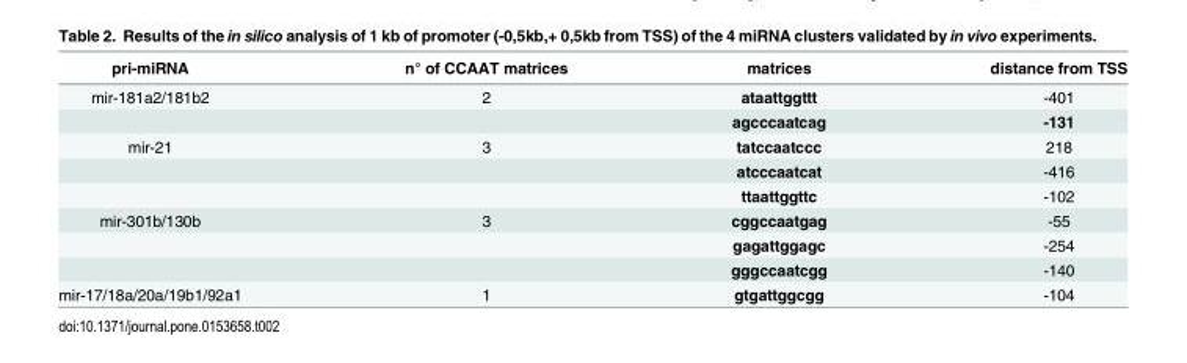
<table><thead><tr><td>pri-miRNA</td><td>n° of CCAAT matrices</td><td>matrices</td><td>distance from TSS</td></tr></thead><tbody><tr><td rowspan="2">mir-181a2/181b2</td><td>2</td><td>ataattggttt</td><td>-401</td></tr><tr><td></td><td>agcccaatcag</td><td>-131</td></tr><tr><td rowspan="3">mir-21</td><td>3</td><td>tatccaatccc</td><td>218</td></tr><tr><td></td><td>atcccaatcat</td><td>-416</td></tr><tr><td></td><td>ttaattggttc</td><td>-102</td></tr><tr><td rowspan="3">mir-301b/130b</td><td>3</td><td>cggccaatgag</td><td>-55</td></tr><tr><td></td><td>gagattggagc</td><td>-254</td></tr><tr><td></td><td>gggccaatcgg</td><td>-140</td></tr><tr><td>mir-17/18a/20a/19b1/92a1</td><td>1</td><td>gtgattggcgg</td><td>-104</td></tr></tbody></table>